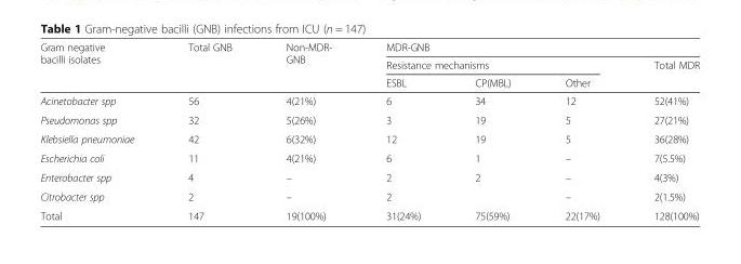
<table><thead><tr><td rowspan="3">Gram negative bacilli isolates</td><td rowspan="3">Total GNB</td><td rowspan="3">Non-MDR- GNB</td><td colspan="4">MDR-GNB</td></tr><tr><td colspan="3">Resistance mechanisms</td><td rowspan="2">Total MDR</td></tr><tr><td>ESBL</td><td>CP(MBL)</td><td>Other</td></tr></thead><tbody><tr><td>Acinetobacter spp</td><td>56</td><td>4(21%)</td><td>6</td><td>34</td><td>12</td><td>52(41%)</td></tr><tr><td>Pseudomonas spp</td><td>32</td><td>5(26%)</td><td>3</td><td>19</td><td>5</td><td>27(21%)</td></tr><tr><td>Klebsiella pneumoniae</td><td>42</td><td>6(32%)</td><td>12</td><td>19</td><td>5</td><td>36(28%)</td></tr><tr><td>Escherichia coli</td><td>11</td><td>4(21%)</td><td>6</td><td>1</td><td>–</td><td>7(5.5%)</td></tr><tr><td>Enterobacter spp</td><td>4</td><td>–</td><td>2</td><td>2</td><td>–</td><td>4(3%)</td></tr><tr><td>Citrobacter spp</td><td>2</td><td>–</td><td>2</td><td></td><td>–</td><td>2(1.5%)</td></tr><tr><td>Total</td><td>147</td><td>19(100%)</td><td>31(24%)</td><td>75(59%)</td><td>22(17%)</td><td>128(100%)</td></tr></tbody></table>